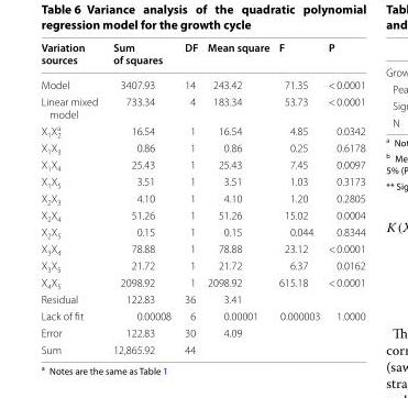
<table><thead><tr><td>Variation sources</td><td>Sum of squares</td><td>DF</td><td>Mean square</td><td>F</td><td>P</td></tr></thead><tbody><tr><td>Model</td><td>3407.93</td><td>14</td><td>243.42</td><td>71.35</td><td>&lt; 0.0001</td></tr><tr><td>Linear mixed model</td><td>733.34</td><td>4</td><td>183.34</td><td>53.73</td><td>&lt; 0.0001</td></tr><tr><td>X<sub>1</sub>X<sub>2</sub> <sup>a</sup></td><td>16.54</td><td>1</td><td>16.54</td><td>4.85</td><td>0.0342</td></tr><tr><td>X<sub>1</sub>X<sub>3</sub></td><td>0.86</td><td>1</td><td>0.86</td><td>0.25</td><td>0.6178</td></tr><tr><td>X<sub>1</sub>X<sub>4</sub></td><td>25.43</td><td>1</td><td>25.43</td><td>7.45</td><td>0.0097</td></tr><tr><td>X<sub>1</sub>X<sub>5</sub></td><td>3.51</td><td>1</td><td>3.51</td><td>1.03</td><td>0.3173</td></tr><tr><td>X<sub>2</sub>X<sub>3</sub></td><td>4.10</td><td>1</td><td>4.10</td><td>1.20</td><td>0.2805</td></tr><tr><td>X<sub>2</sub>X<sub>4</sub></td><td>51.26</td><td>1</td><td>51.26</td><td>15.02</td><td>0.0004</td></tr><tr><td>X<sub>2</sub>X<sub>5</sub></td><td>0.15</td><td>1</td><td>0.15</td><td>0.044</td><td>0.8344</td></tr><tr><td>X<sub>3</sub>X<sub>4</sub></td><td>78.88</td><td>1</td><td>78.88</td><td>23.12</td><td>&lt; 0.0001</td></tr><tr><td>X<sub>3</sub>X<sub>5</sub></td><td>21.72</td><td>1</td><td>21.72</td><td>6.37</td><td>0.0162</td></tr><tr><td>X<sub>4</sub>X<sub>5</sub></td><td>2098.92</td><td>1</td><td>2098.92</td><td>615.18</td><td>&lt; 0.0001</td></tr><tr><td>Residual</td><td>122.83</td><td>36</td><td>3.41</td><td></td><td></td></tr><tr><td>Lack of fit</td><td>0.00008</td><td>6</td><td>0.00001</td><td>0.000003</td><td>1.0000</td></tr><tr><td>Error</td><td>122.83</td><td>30</td><td>4.09</td><td></td><td></td></tr><tr><td>Sum</td><td>12,865.92</td><td>44</td><td></td><td></td><td></td></tr></tbody></table>